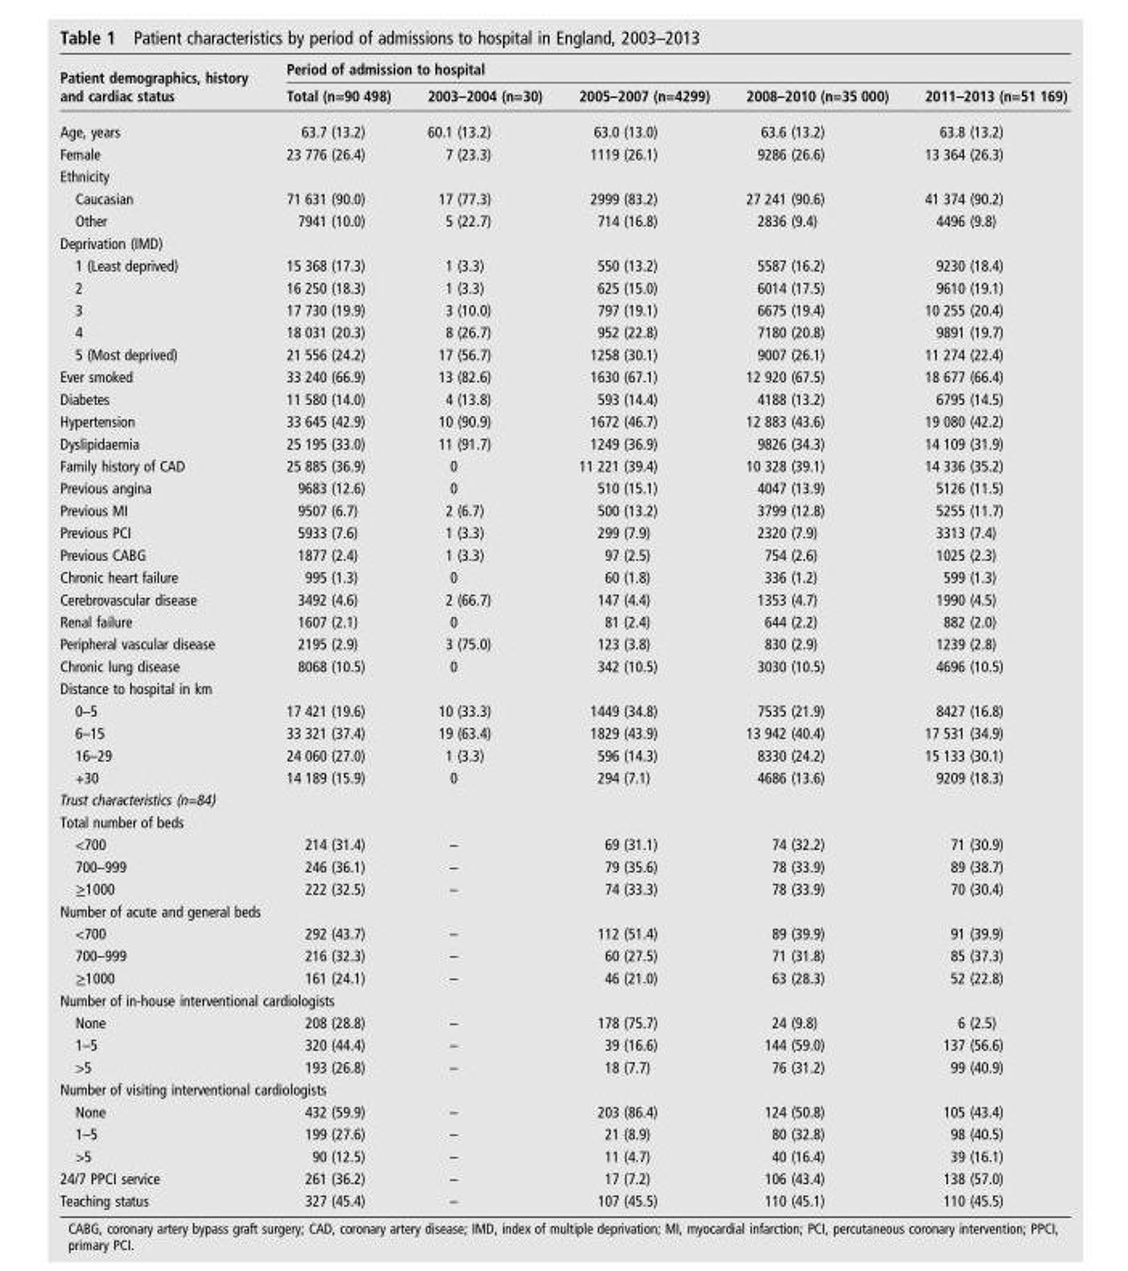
<table><thead><tr><td rowspan="2">Patient demographics, history and cardiac status</td><td colspan="5">Period of admission to hospital</td></tr><tr><td>Total (n=90 498)</td><td>2003–2004 (n=30)</td><td>2005–2007 (n=4299)</td><td>2008–2010 (n=35 000)</td><td>2011–2013 (n=51 169)</td></tr></thead><tbody><tr><td>Age, years</td><td>63.7 (13.2)</td><td>60.1 (13.2)</td><td>63.0 (13.0)</td><td>63.6 (13.2)</td><td>63.8 (13.2)</td></tr><tr><td>Female</td><td>23 776 (26.4)</td><td>7 (23.3)</td><td>1119 (26.1)</td><td>9286 (26.6)</td><td>13 364 (26.3)</td></tr><tr><td colspan="6">Ethnicity</td></tr><tr><td>Caucasian</td><td>71 631 (90.0)</td><td>17 (77.3)</td><td>2999 (83.2)</td><td>27 241 (90.6)</td><td>41 374 (90.2)</td></tr><tr><td>Other</td><td>7941 (10.0)</td><td>5 (22.7)</td><td>714 (16.8)</td><td>2836 (9.4)</td><td>4496 (9.8)</td></tr><tr><td colspan="6">Deprivation (IMD)</td></tr><tr><td>1 (Least deprived)</td><td>15 368 (17.3)</td><td>1 (3.3)</td><td>550 (13.2)</td><td>5587 (16.2)</td><td>9230 (18.4)</td></tr><tr><td>2</td><td>16 250 (18.3)</td><td>1 (3.3)</td><td>625 (15.0)</td><td>6014 (17.5)</td><td>9610 (19.1)</td></tr><tr><td>3</td><td>17 730 (19.9)</td><td>3 (10.0)</td><td>797 (19.1)</td><td>6675 (19.4)</td><td>10 255 (20.4)</td></tr><tr><td>4</td><td>18 031 (20.3)</td><td>8 (26.7)</td><td>952 (22.8)</td><td>7180 (20.8)</td><td>9891 (19.7)</td></tr><tr><td>5 (Most deprived)</td><td>21 556 (24.2)</td><td>17 (56.7)</td><td>1258 (30.1)</td><td>9007 (26.1)</td><td>11 274 (22.4)</td></tr><tr><td>Ever smoked</td><td>33 240 (66.9)</td><td>13 (82.6)</td><td>1630 (67.1)</td><td>12 920 (67.5)</td><td>18 677 (66.4)</td></tr><tr><td>Diabetes</td><td>11 580 (14.0)</td><td>4 (13.8)</td><td>593 (14.4)</td><td>4188 (13.2)</td><td>6795 (14.5)</td></tr><tr><td>Hypertension</td><td>33 645 (42.9)</td><td>10 (90.9)</td><td>1672 (46.7)</td><td>12 883 (43.6)</td><td>19 080 (42.2)</td></tr><tr><td>Dyslipidaemia</td><td>25 195 (33.0)</td><td>11 (91.7)</td><td>1249 (36.9)</td><td>9826 (34.3)</td><td>14 109 (31.9)</td></tr><tr><td>Family history of CAD</td><td>25 885 (36.9)</td><td>0</td><td>11 221 (39.4)</td><td>10 328 (39.1)</td><td>14 336 (35.2)</td></tr><tr><td>Previous angina</td><td>9683 (12.6)</td><td>0</td><td>510 (15.1)</td><td>4047 (13.9)</td><td>5126 (11.5)</td></tr><tr><td>Previous MI</td><td>9507 (6.7)</td><td>2 (6.7)</td><td>500 (13.2)</td><td>3799 (12.8)</td><td>5255 (11.7)</td></tr><tr><td>Previous PCI</td><td>5933 (7.6)</td><td>1 (3.3)</td><td>299 (7.9)</td><td>2320 (7.9)</td><td>3313 (7.4)</td></tr><tr><td>Previous CABG</td><td>1877 (2.4)</td><td>1 (3.3)</td><td>97 (2.5)</td><td>754 (2.6)</td><td>1025 (2.3)</td></tr><tr><td>Chronic heart failure</td><td>995 (1.3)</td><td>0</td><td>60 (1.8)</td><td>336 (1.2)</td><td>599 (1.3)</td></tr><tr><td>Cerebrovascular disease</td><td>3492 (4.6)</td><td>2 (66.7)</td><td>147 (4.4)</td><td>1353 (4.7)</td><td>1990 (4.5)</td></tr><tr><td>Renal failure</td><td>1607 (2.1)</td><td>0</td><td>81 (2.4)</td><td>644 (2.2)</td><td>882 (2.0)</td></tr><tr><td>Peripheral vascular disease</td><td>2195 (2.9)</td><td>3 (75.0)</td><td>123 (3.8)</td><td>830 (2.9)</td><td>1239 (2.8)</td></tr><tr><td>Chronic lung disease</td><td>8068 (10.5)</td><td>0</td><td>342 (10.5)</td><td>3030 (10.5)</td><td>4696 (10.5)</td></tr><tr><td colspan="6">Distance to hospital in km</td></tr><tr><td>0–5</td><td>17 421 (19.6)</td><td>10 (33.3)</td><td>1449 (34.8)</td><td>7535 (21.9)</td><td>8427 (16.8)</td></tr><tr><td>6–15</td><td>33 321 (37.4)</td><td>19 (63.4)</td><td>1829 (43.9)</td><td>13 942 (40.4)</td><td>17 531 (34.9)</td></tr><tr><td>16–29</td><td>24 060 (27.0)</td><td>1 (3.3)</td><td>596 (14.3)</td><td>8330 (24.2)</td><td>15 133 (30.1)</td></tr><tr><td>+30</td><td>14 189 (15.9)</td><td>0</td><td>294 (7.1)</td><td>4686 (13.6)</td><td>9209 (18.3)</td></tr><tr><td colspan="6">Trust characteristics (n=84)</td></tr><tr><td colspan="6">Total number of beds</td></tr><tr><td>&lt;700</td><td>214 (31.4)</td><td>–</td><td>69 (31.1)</td><td>74 (32.2)</td><td>71 (30.9)</td></tr><tr><td>700–999</td><td>246 (36.1)</td><td>–</td><td>79 (35.6)</td><td>78 (33.9)</td><td>89 (38.7)</td></tr><tr><td>≥1000</td><td>222 (32.5)</td><td>–</td><td>74 (33.3)</td><td>78 (33.9)</td><td>70 (30.4)</td></tr><tr><td colspan="6">Number of acute and general beds</td></tr><tr><td>&lt;700</td><td>292 (43.7)</td><td>–</td><td>112 (51.4)</td><td>89 (39.9)</td><td>91 (39.9)</td></tr><tr><td>700–999</td><td>216 (32.3)</td><td>–</td><td>60 (27.5)</td><td>71 (31.8)</td><td>85 (37.3)</td></tr><tr><td>≥1000</td><td>161 (24.1)</td><td>–</td><td>46 (21.0)</td><td>63 (28.3)</td><td>52 (22.8)</td></tr><tr><td colspan="6">Number of in-house interventional cardiologists</td></tr><tr><td>None</td><td>208 (28.8)</td><td>–</td><td>178 (75.7)</td><td>24 (9.8)</td><td>6 (2.5)</td></tr><tr><td>1–5</td><td>320 (44.4)</td><td>–</td><td>39 (16.6)</td><td>144 (59.0)</td><td>137 (56.6)</td></tr><tr><td>&gt;5</td><td>193 (26.8)</td><td>–</td><td>18 (7.7)</td><td>76 (31.2)</td><td>99 (40.9)</td></tr><tr><td colspan="6">Number of visiting interventional cardiologists</td></tr><tr><td>None</td><td>432 (59.9)</td><td>–</td><td>203 (86.4)</td><td>124 (50.8)</td><td>105 (43.4)</td></tr><tr><td>1–5</td><td>199 (27.6)</td><td>–</td><td>21 (8.9)</td><td>80 (32.8)</td><td>98 (40.5)</td></tr><tr><td>&gt;5</td><td>90 (12.5)</td><td>–</td><td>11 (4.7)</td><td>40 (16.4)</td><td>39 (16.1)</td></tr><tr><td>24/7 PPCI service</td><td>261 (36.2)</td><td>–</td><td>17 (7.2)</td><td>106 (43.4)</td><td>138 (57.0)</td></tr><tr><td>Teaching status</td><td>327 (45.4)</td><td>–</td><td>107 (45.5)</td><td>110 (45.1)</td><td>110 (45.5)</td></tr></tbody></table>